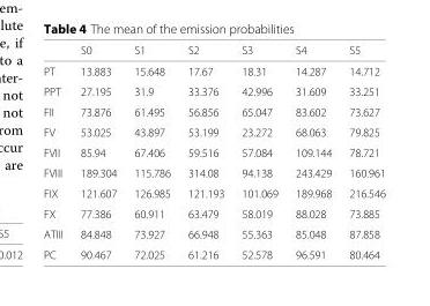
<table><thead><tr><td></td><td>S0</td><td>S1</td><td>S2</td><td>S3</td><td>S4</td><td>S5</td></tr></thead><tbody><tr><td>PT</td><td>13.883</td><td>15.648</td><td>17.67</td><td>18.31</td><td>14.287</td><td>14.712</td></tr><tr><td>PPT</td><td>27.195</td><td>31.9</td><td>33.376</td><td>42.996</td><td>31.609</td><td>33.251</td></tr><tr><td>FII</td><td>73.876</td><td>61.495</td><td>56.856</td><td>65.047</td><td>83.602</td><td>73.627</td></tr><tr><td>FV</td><td>53.025</td><td>43.897</td><td>53.199</td><td>23.272</td><td>68.063</td><td>79.825</td></tr><tr><td>FVII</td><td>85.94</td><td>67.406</td><td>59.516</td><td>57.084</td><td>109.144</td><td>78.721</td></tr><tr><td>FVIII</td><td>189.304</td><td>115.786</td><td>314.08</td><td>94.138</td><td>243.429</td><td>160.961</td></tr><tr><td>FIX</td><td>121.607</td><td>126.985</td><td>121.193</td><td>101.069</td><td>189.968</td><td>216.546</td></tr><tr><td>FX</td><td>77.386</td><td>60.911</td><td>63.479</td><td>58.019</td><td>88.028</td><td>73.885</td></tr><tr><td>ATIII</td><td>84.848</td><td>73.927</td><td>66.948</td><td>55.363</td><td>85.048</td><td>87.858</td></tr><tr><td>PC</td><td>90.467</td><td>72.025</td><td>61.216</td><td>52.578</td><td>96.591</td><td>80.464</td></tr></tbody></table>